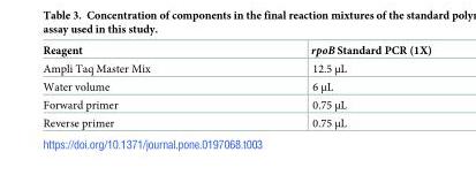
<table><thead><tr><td>Reagent</td><td>rpoB Standard PCR (1X)</td></tr></thead><tbody><tr><td>Ampli Taq Master Mix</td><td>12.5 μL</td></tr><tr><td>Water volume</td><td>6 μL</td></tr><tr><td>Forward primer</td><td>0.75 μL</td></tr><tr><td>Reverse primer</td><td>0.75 μL</td></tr></tbody></table>